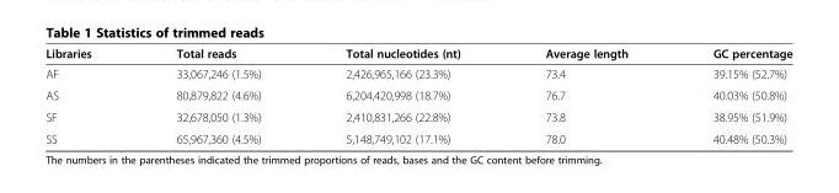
<table><thead><tr><td>Libraries</td><td>Total reads</td><td>Total nucleotides (nt)</td><td>Average length</td><td>GC percentage</td></tr></thead><tbody><tr><td>AF</td><td>33,067,246 (1.5%)</td><td>2,426,965,166 (23.3%)</td><td>73.4</td><td>39.15% (52.7%)</td></tr><tr><td>AS</td><td>80,879,822 (4.6%)</td><td>6,204,420,998 (18.7%)</td><td>76.7</td><td>40.03% (50.8%)</td></tr><tr><td>SF</td><td>32,678,050 (1.3%)</td><td>2,410,831,266 (22.8%)</td><td>73.8</td><td>38.95% (51.9%)</td></tr><tr><td>SS</td><td>65,967,360 (4.5%)</td><td>5,148,749,102 (17.1%)</td><td>78.0</td><td>40.48% (50.3%)</td></tr></tbody></table>